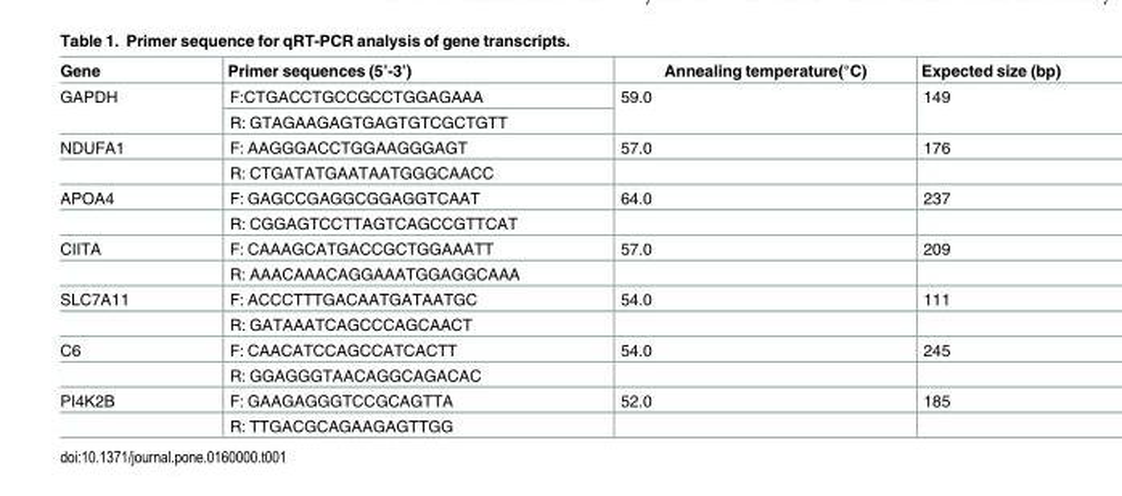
<table><thead><tr><td>Gene</td><td>Primer sequences (5’-3’)</td><td>Annealing temperature(°C)</td><td>Expected size (bp)</td></tr></thead><tbody><tr><td rowspan="2">GAPDH</td><td>F:CTGACCTGCCGCCTGGAGAAA</td><td rowspan="2">59.0</td><td rowspan="2">149</td></tr><tr><td>R: GTAGAAGAGTGAGTGTCGCTGTT</td></tr><tr><td rowspan="2">NDUFA1</td><td>F: AAGGGACCTGGAAGGGAGT</td><td>57.0</td><td>176</td></tr><tr><td>R: CTGATATGAATAATGGGCAACC</td><td></td><td></td></tr><tr><td rowspan="2">APOA4</td><td>F: GAGCCGAGGCGGAGGTCAAT</td><td>64.0</td><td>237</td></tr><tr><td>R: CGGAGTCCTTAGTCAGCCGTTCAT</td><td></td><td></td></tr><tr><td rowspan="2">CIITA</td><td>F: CAAAGCATGACCGCTGGAAATT</td><td>57.0</td><td>209</td></tr><tr><td>R: AAACAAACAGGAAATGGAGGCAAA</td><td></td><td></td></tr><tr><td rowspan="2">SLC7A11</td><td>F: ACCCTTTGACAATGATAATGC</td><td>54.0</td><td>111</td></tr><tr><td>R: GATAAATCAGCCCAGCAACT</td><td></td><td></td></tr><tr><td rowspan="2">C6</td><td>F: CAACATCCAGCCATCACTT</td><td>54.0</td><td>245</td></tr><tr><td>R: GGAGGGTAACAGGCAGACAC</td><td></td><td></td></tr><tr><td rowspan="2">PI4K2B</td><td>F: GAAGAGGGTCCGCAGTTA</td><td>52.0</td><td>185</td></tr><tr><td>R: TTGACGCAGAAGAGTTGG</td><td></td><td></td></tr></tbody></table>